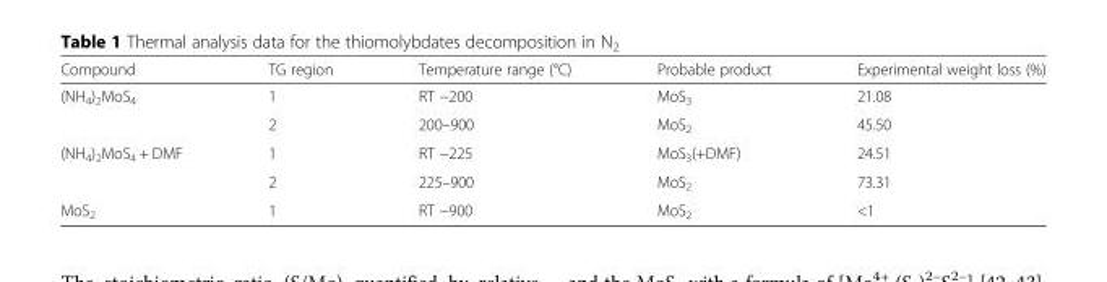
<table><thead><tr><td>Compound</td><td>TG region</td><td>Temperature range (°C)</td><td>Probable product</td><td>Experimental weight loss (%)</td></tr></thead><tbody><tr><td rowspan="2">(NH<sub>4</sub>)<sub>2</sub>MoS<sub>4</sub></td><td>1</td><td>RT −200</td><td>MoS<sub>3</sub></td><td>21.08</td></tr><tr><td>2</td><td>200–900</td><td>MoS<sub>2</sub></td><td>45.50</td></tr><tr><td rowspan="2">(NH<sub>4</sub>)<sub>2</sub>MoS<sub>4</sub> + DMF</td><td>1</td><td>RT −225</td><td>MoS<sub>3</sub>(+DMF)</td><td>24.51</td></tr><tr><td>2</td><td>225–900</td><td>MoS<sub>2</sub></td><td>73.31</td></tr><tr><td>MoS<sub>2</sub></td><td>1</td><td>RT −900</td><td>MoS<sub>2</sub></td><td>&lt;1</td></tr></tbody></table>